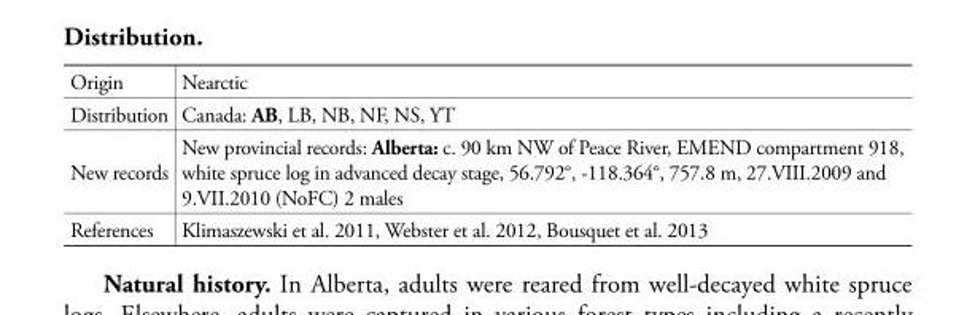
<table><tbody><tr><td>Origin</td><td>Nearctic</td></tr><tr><td>Distribution</td><td>Canada: AB, LB, NB, NF, NS, YT</td></tr><tr><td>New records</td><td>New provincial records: Alberta: c. 90 km NW of Peace River, EMEND compartment 918, white spruce log in advanced decay stage, 56.792°, -118.364°, 757.8 m, 27.VIII.2009 and 9.VII.2010 (NoFC) 2 males</td></tr><tr><td>References</td><td>Klimaszewski et al. 2011, Webster et al. 2012, Bousquet et al. 2013</td></tr></tbody></table>